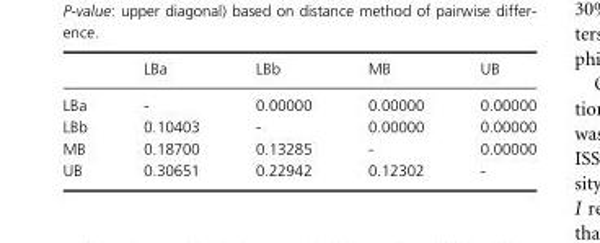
<table><thead><tr><td></td><td>LBa</td><td>LBb</td><td>MB</td><td>UB</td></tr></thead><tbody><tr><td>LBa</td><td>-</td><td>0.00000</td><td>0.00000</td><td>0.00000</td></tr><tr><td>LBb</td><td>0.10403</td><td>-</td><td>0.00000</td><td>0.00000</td></tr><tr><td>MB</td><td>0.18700</td><td>0.13285</td><td>-</td><td>0.00000</td></tr><tr><td>UB</td><td>0.30651</td><td>0.22942</td><td>0.12302</td><td>-</td></tr></tbody></table>